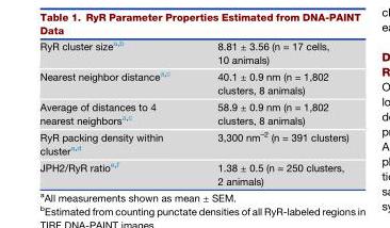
<table><tbody><tr><td>RyR cluster size<sup>a,b</sup></td><td>8.81 ± 3.56 (n = 17 cells, 10 animals)</td></tr><tr><td>Nearest neighbor distance<sup>a,c</sup></td><td>40.1 ± 0.9 nm (n = 1,802 clusters, 8 animals)</td></tr><tr><td>Average of distances to 4 nearest neighbors<sup>a,c</sup></td><td>58.9 ± 0.9 nm (n = 1,802 clusters, 8 animals)</td></tr><tr><td>RyR packing density within cluster<sup>a,d</sup></td><td>3,300 nm<sup>–2</sup> (n = 391 clusters)</td></tr><tr><td>JPH2/RyR ratio<sup>e,f</sup></td><td>1.38 ± 0.5 (n = 250 clusters, 2 animals)</td></tr></tbody></table>